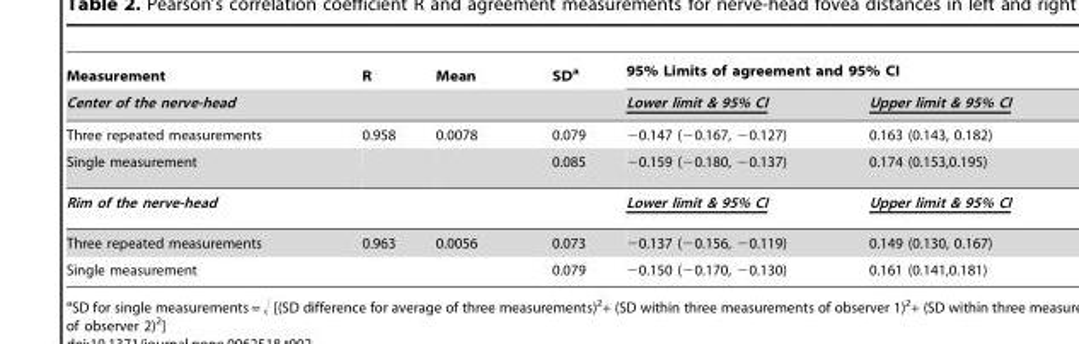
<table><thead><tr><td>Measurement</td><td>R</td><td>Mean</td><td>SD<sup>a</sup></td><td colspan="2">95% Limits of agreement and 95% CI</td></tr><tr><td colspan="4">Center of the nerve-head</td><td>Lower limit &amp; 95% CI</td><td>Upper limit &amp; 95% CI</td></tr></thead><tbody><tr><td>Three repeated measurements</td><td>0.958</td><td>0.0078</td><td>0.079</td><td>−0.147 (−0.167, −0.127)</td><td>0.163 (0.143, 0.182)</td></tr><tr><td>Single measurement</td><td></td><td></td><td>0.085</td><td>−0.159 (−0.180, −0.137)</td><td>0.174 (0.153,0.195)</td></tr><tr><td colspan="4">Rim of the nerve-head</td><td>Lower limit &amp; 95% CI</td><td>Upper limit &amp; 95% CI</td></tr><tr><td>Three repeated measurements</td><td>0.963</td><td>0.0056</td><td>0.073</td><td>−0.137 (−0.156, −0.119)</td><td>0.149 (0.130, 0.167)</td></tr><tr><td>Single measurement</td><td></td><td></td><td>0.079</td><td>−0.150 (−0.170, −0.130)</td><td>0.161 (0.141,0.181)</td></tr></tbody></table>